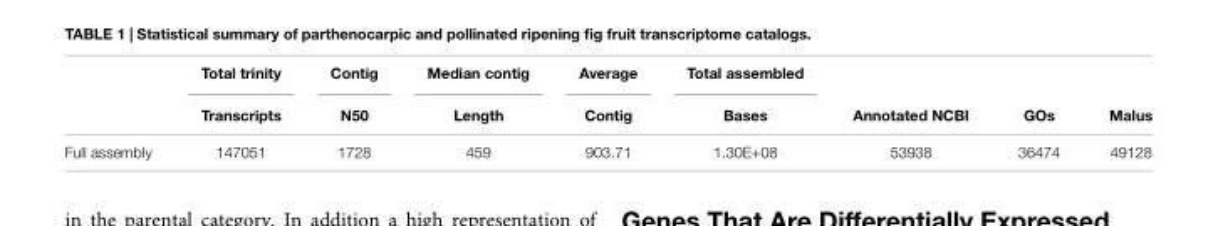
<table><thead><tr><td rowspan="2"></td><td rowspan="2">Total trinity Transcripts</td><td rowspan="2">Contig N50</td><td rowspan="2">Median contig Length</td><td rowspan="2">Average Contig</td><td rowspan="2">Total assembled Bases</td><td rowspan="2">Annotated NCBI</td><td rowspan="2">GOs</td><td rowspan="2">Malus</td></tr><tr></tr></thead><tbody><tr><td>Full assembly</td><td>147051</td><td>1728</td><td>459</td><td>903.71</td><td>1.30E+08</td><td>53938</td><td>36474</td><td>49128</td></tr></tbody></table>